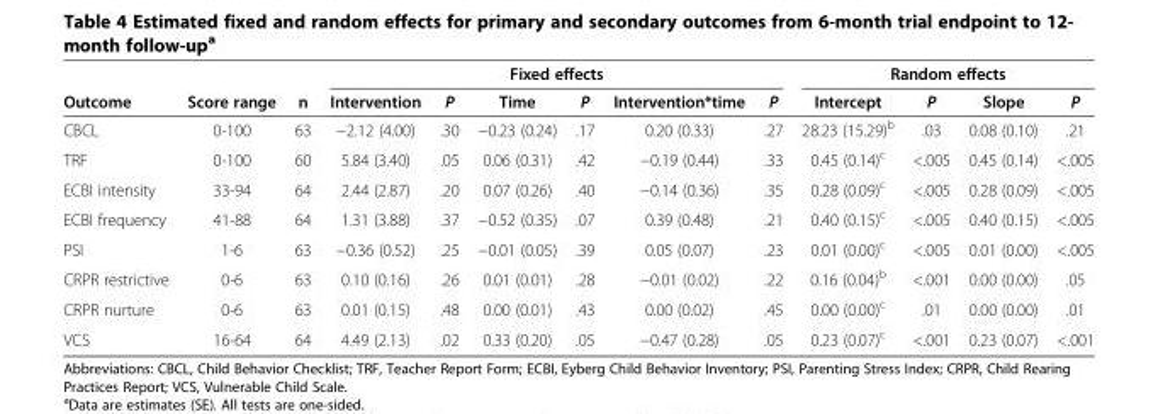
<table><thead><tr><td rowspan="2">Outcome</td><td rowspan="2">Score range</td><td rowspan="2">n</td><td colspan="6">Fixed effects</td><td colspan="4">Random effects</td></tr><tr><td>Intervention</td><td>P</td><td>Time</td><td>P</td><td>Intervention*time</td><td>P</td><td>Intercept</td><td>P</td><td>Slope</td><td>P</td></tr></thead><tbody><tr><td>CBCL</td><td>0-100</td><td>63</td><td>−2.12 (4.00)</td><td>.30</td><td>−0.23 (0.24)</td><td>.17</td><td>0.20 (0.33)</td><td>.27</td><td>28.23 (15.29)<sup>b</sup></td><td>.03</td><td>0.08 (0.10)</td><td>.21</td></tr><tr><td>TRF</td><td>0-100</td><td>60</td><td>5.84 (3.40)</td><td>.05</td><td>0.06 (0.31)</td><td>.42</td><td>−0.19 (0.44)</td><td>.33</td><td>0.45 (0.14)<sup>c</sup></td><td>&lt;.005</td><td>0.45 (0.14)</td><td>&lt;.005</td></tr><tr><td>ECBI intensity</td><td>33-94</td><td>64</td><td>2.44 (2.87)</td><td>.20</td><td>0.07 (0.26)</td><td>.40</td><td>−0.14 (0.36)</td><td>.35</td><td>0.28 (0.09)<sup>c</sup></td><td>&lt;.005</td><td>0.28 (0.09)</td><td>&lt;.005</td></tr><tr><td>ECBI frequency</td><td>41-88</td><td>64</td><td>1.31 (3.88)</td><td>.37</td><td>−0.52 (0.35)</td><td>.07</td><td>0.39 (0.48)</td><td>.21</td><td>0.40 (0.15)<sup>c</sup></td><td>&lt;.005</td><td>0.40 (0.15)</td><td>&lt;.005</td></tr><tr><td>PSI</td><td>1-6</td><td>63</td><td>−0.36 (0.52)</td><td>.25</td><td>−0.01 (0.05)</td><td>.39</td><td>0.05 (0.07)</td><td>.23</td><td>0.01 (0.00)<sup>c</sup></td><td>&lt;.005</td><td>0.01 (0.00)</td><td>&lt;.005</td></tr><tr><td>CRPR restrictive</td><td>0-6</td><td>63</td><td>0.10 (0.16)</td><td>.26</td><td>0.01 (0.01)</td><td>.28</td><td>−0.01 (0.02)</td><td>.22</td><td>0.16 (0.04)<sup>b</sup></td><td>&lt;.001</td><td>0.00 (0.00)</td><td>.05</td></tr><tr><td>CRPR nurture</td><td>0-6</td><td>63</td><td>0.01 (0.15)</td><td>.48</td><td>0.00 (0.01)</td><td>.43</td><td>0.00 (0.02)</td><td>.45</td><td>0.00 (0.00)<sup>c</sup></td><td>.01</td><td>0.00 (0.00)</td><td>.01</td></tr><tr><td>VCS</td><td>16-64</td><td>64</td><td>4.49 (2.13)</td><td>.02</td><td>0.33 (0.20)</td><td>.05</td><td>−0.47 (0.28)</td><td>.05</td><td>0.23 (0.07)<sup>c</sup></td><td>&lt;.001</td><td>0.23 (0.07)</td><td>&lt;.001</td></tr></tbody></table>